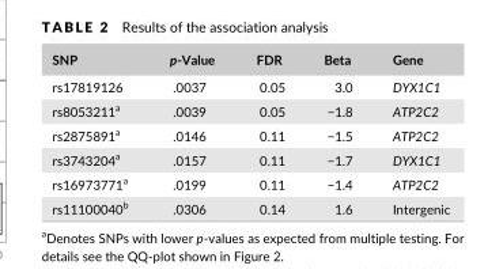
<table><thead><tr><td>SNP</td><td>p- Value</td><td>FDR</td><td>Beta</td><td>Gene</td></tr></thead><tbody><tr><td>rs17819126</td><td>.0037</td><td>0.05</td><td>3.0</td><td>DYX1C1</td></tr><tr><td>rs8053211<sup>a</sup></td><td>.0039</td><td>0.05</td><td>−1.8</td><td>ATP2C2</td></tr><tr><td>rs2875891<sup>a</sup></td><td>.0146</td><td>0.11</td><td>−1.5</td><td>ATP2C2</td></tr><tr><td>rs3743204<sup>a</sup></td><td>.0157</td><td>0.11</td><td>−1.7</td><td>DYX1C1</td></tr><tr><td>rs16973771<sup>a</sup></td><td>.0199</td><td>0.11</td><td>−1.4</td><td>ATP2C2</td></tr><tr><td>rs11100040<sup>b</sup></td><td>.0306</td><td>0.14</td><td>1.6</td><td>Intergenic</td></tr></tbody></table>